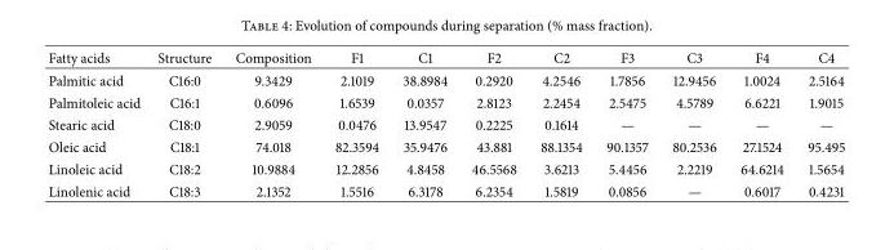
<table><thead><tr><td>Fatty acids</td><td>Structure</td><td>Composition</td><td>F1</td><td>C1</td><td>F2</td><td>C2</td><td>F3</td><td>C3</td><td>F4</td><td>C4</td></tr></thead><tbody><tr><td>Palmitic acid</td><td>C16:0</td><td>9.3429</td><td>2.1019</td><td>38.8984</td><td>0.2920</td><td>4.2546</td><td>1.7856</td><td>12.9456</td><td>1.0024</td><td>2.5164</td></tr><tr><td>Palmitoleic acid</td><td>C16:1</td><td>0.6096</td><td>1.6539</td><td>0.0357</td><td>2.8123</td><td>2.2454</td><td>2.5475</td><td>4.5789</td><td>6.6221</td><td>1.9015</td></tr><tr><td>Stearic acid</td><td>C18:0</td><td>2.9059</td><td>0.0476</td><td>13.9547</td><td>0.2225</td><td>0.1614</td><td>—</td><td>—</td><td>—</td><td>—</td></tr><tr><td>Oleic acid</td><td>C18:1</td><td>74.018</td><td>82.3594</td><td>35.9476</td><td>43.881</td><td>88.1354</td><td>90.1357</td><td>80.2536</td><td>27.1524</td><td>95.495</td></tr><tr><td>Linoleic acid</td><td>C18:2</td><td>10.9884</td><td>12.2856</td><td>4.8458</td><td>46.5568</td><td>3.6213</td><td>5.4456</td><td>2.2219</td><td>64.6214</td><td>1.5654</td></tr><tr><td>Linolenic acid</td><td>C18:3</td><td>2.1352</td><td>1.5516</td><td>6.3178</td><td>6.2354</td><td>1.5819</td><td>0.0856</td><td>—</td><td>0.6017</td><td>0.4231</td></tr></tbody></table>